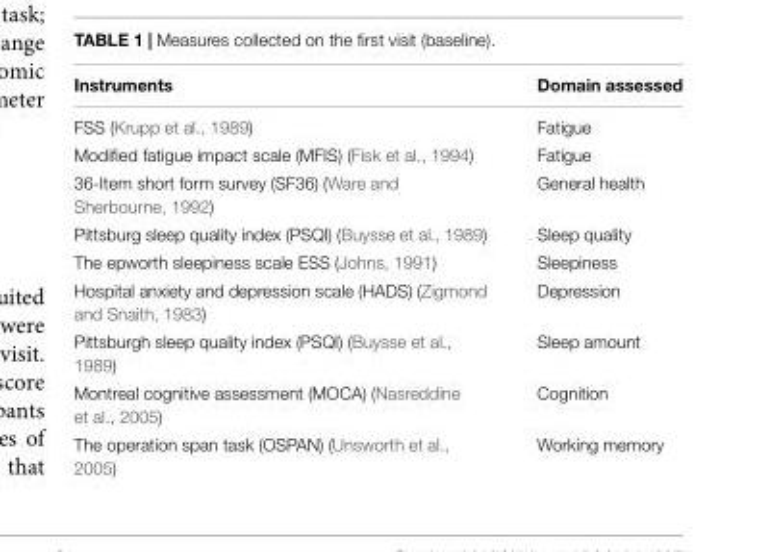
<table><thead><tr><td>Instruments</td><td>Domain assessed</td></tr></thead><tbody><tr><td>FSS (Krupp et al., 1989)</td><td>Fatigue</td></tr><tr><td>Modified fatigue impact scale (MFIS) (Fisk et al., 1994)</td><td>Fatigue</td></tr><tr><td>36-Item short form survey (SF36) (Ware and Sherbourne, 1992)</td><td>General health</td></tr><tr><td>Pittsburg sleep quality index (PSQI) (Buysse et al., 1989)</td><td>Sleep quality</td></tr><tr><td>The epworth sleepiness scale ESS (Johns, 1991)</td><td>Sleepiness</td></tr><tr><td>Hospital anxiety and depression scale (HADS) (Zigmond and Snaith, 1983)</td><td>Depression</td></tr><tr><td>Pittsburgh sleep quality index (PSQI) (Buysse et al., 1989)</td><td>Sleep amount</td></tr><tr><td>Montreal cognitive assessment (MOCA) (Nasreddine et al., 2005)</td><td>Cognition</td></tr><tr><td>The operation span task (OSPAN) (Unsworth et al., 2005)</td><td>Working memory</td></tr></tbody></table>